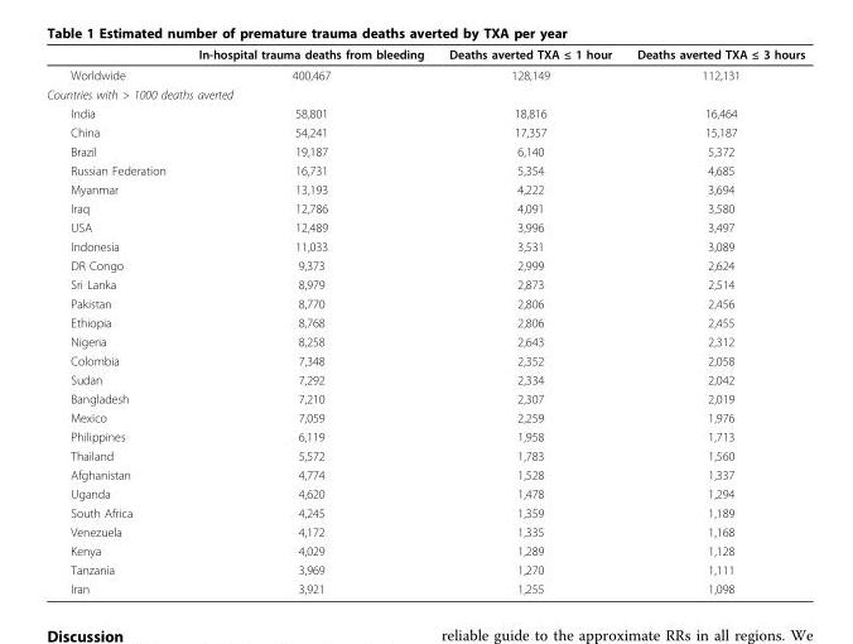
<table><thead><tr><td></td><td>In-hospital trauma deaths from bleeding</td><td>Deaths averted TXA ≤ 1 hour</td><td>Deaths averted TXA ≤ 3 hours</td></tr></thead><tbody><tr><td>Worldwide</td><td>400,467</td><td>128,149</td><td>112,131</td></tr><tr><td colspan="4">Countries with &gt; 1000 deaths averted</td></tr><tr><td>India</td><td>58,801</td><td>18,816</td><td>16,464</td></tr><tr><td>China</td><td>54,241</td><td>17,357</td><td>15,187</td></tr><tr><td>Brazil</td><td>19,187</td><td>6,140</td><td>5,372</td></tr><tr><td>Russian Federation</td><td>16,731</td><td>5,354</td><td>4,685</td></tr><tr><td>Myanmar</td><td>13,193</td><td>4,222</td><td>3,694</td></tr><tr><td>Iraq</td><td>12,786</td><td>4,091</td><td>3,580</td></tr><tr><td>USA</td><td>12,489</td><td>3,996</td><td>3,497</td></tr><tr><td>Indonesia</td><td>11,033</td><td>3,531</td><td>3,089</td></tr><tr><td>DR Congo</td><td>9,373</td><td>2,999</td><td>2,624</td></tr><tr><td>Sri Lanka</td><td>8,979</td><td>2,873</td><td>2,514</td></tr><tr><td>Pakistan</td><td>8,770</td><td>2,806</td><td>2,456</td></tr><tr><td>Ethiopia</td><td>8,768</td><td>2,806</td><td>2,455</td></tr><tr><td>Nigeria</td><td>8,258</td><td>2,643</td><td>2,312</td></tr><tr><td>Colombia</td><td>7,348</td><td>2,352</td><td>2,058</td></tr><tr><td>Sudan</td><td>7,292</td><td>2,334</td><td>2,042</td></tr><tr><td>Bangladesh</td><td>7,210</td><td>2,307</td><td>2,019</td></tr><tr><td>Mexico</td><td>7,059</td><td>2,259</td><td>1,976</td></tr><tr><td>Philippines</td><td>6,119</td><td>1,958</td><td>1,713</td></tr><tr><td>Thailand</td><td>5,572</td><td>1,783</td><td>1,560</td></tr><tr><td>Afghanistan</td><td>4,774</td><td>1,528</td><td>1,337</td></tr><tr><td>Uganda</td><td>4,620</td><td>1,478</td><td>1,294</td></tr><tr><td>South Africa</td><td>4,245</td><td>1,359</td><td>1,189</td></tr><tr><td>Venezuela</td><td>4,172</td><td>1,335</td><td>1,168</td></tr><tr><td>Kenya</td><td>4,029</td><td>1,289</td><td>1,128</td></tr><tr><td>Tanzania</td><td>3,969</td><td>1,270</td><td>1,111</td></tr><tr><td>Iran</td><td>3,921</td><td>1,255</td><td>1,098</td></tr></tbody></table>